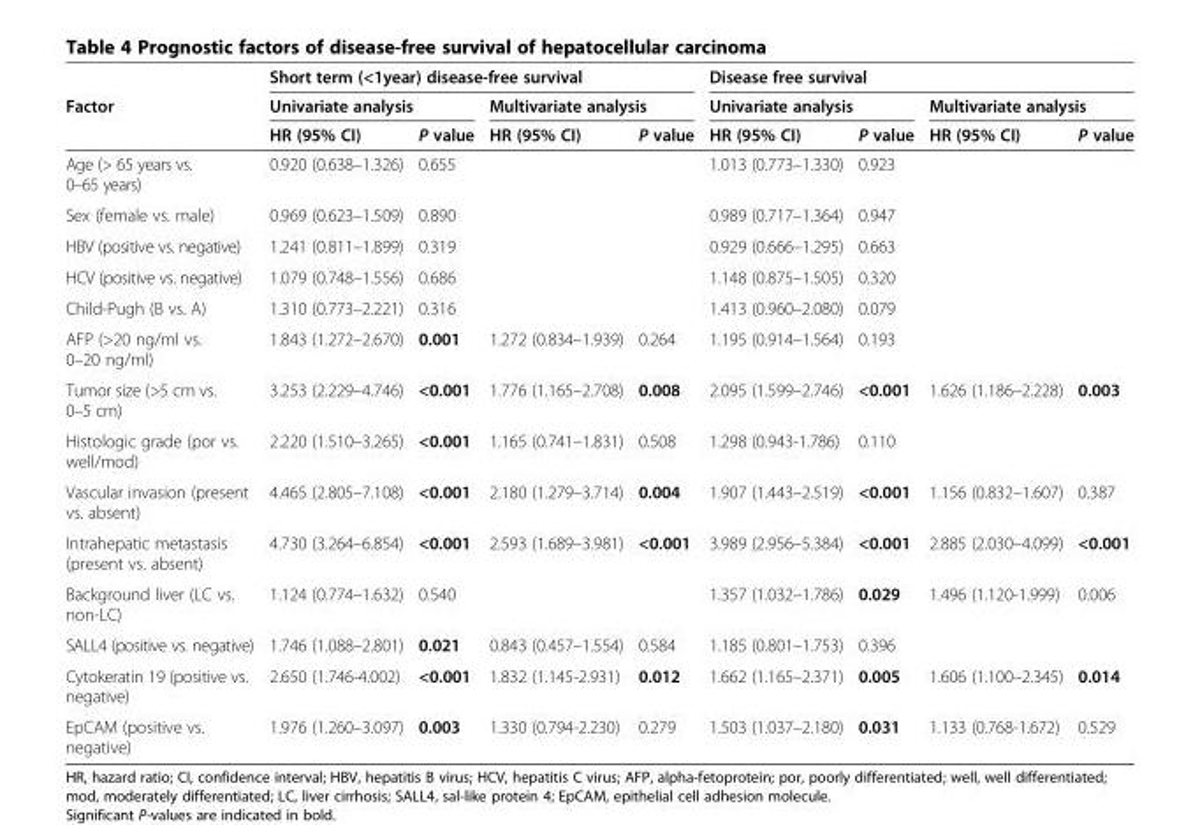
<table><thead><tr><td rowspan="3">Factor</td><td colspan="4">Short term (&lt;1year) disease-free survival</td><td colspan="4">Disease free survival</td></tr><tr><td colspan="2">Univariate analysis</td><td colspan="2">Multivariate analysis</td><td colspan="2">Univariate analysis</td><td colspan="2">Multivariate analysis</td></tr><tr><td>HR (95% CI)</td><td>P value</td><td>HR (95% CI)</td><td>P value</td><td>HR (95% CI)</td><td>P value</td><td>HR (95% CI)</td><td>P value</td></tr></thead><tbody><tr><td>Age (&gt; 65 years vs. 0–65 years)</td><td>0.920 (0.638–1.326)</td><td>0.655</td><td></td><td></td><td>1.013 (0.773–1.330)</td><td>0.923</td><td></td><td></td></tr><tr><td>Sex (female vs. male)</td><td>0.969 (0.623–1.509)</td><td>0.890</td><td></td><td></td><td>0.989 (0.717–1.364)</td><td>0.947</td><td></td><td></td></tr><tr><td>HBV (positive vs. negative)</td><td>1.241 (0.811–1.899)</td><td>0.319</td><td></td><td></td><td>0.929 (0.666–1.295)</td><td>0.663</td><td></td><td></td></tr><tr><td>HCV (positive vs. negative)</td><td>1.079 (0.748–1.556)</td><td>0.686</td><td></td><td></td><td>1.148 (0.875–1.505)</td><td>0.320</td><td></td><td></td></tr><tr><td>Child-Pugh (B vs. A)</td><td>1.310 (0.773–2.221)</td><td>0.316</td><td></td><td></td><td>1.413 (0.960–2.080)</td><td>0.079</td><td></td><td></td></tr><tr><td>AFP (&gt;20 ng/ml vs. 0–20 ng/ml)</td><td>1.843 (1.272–2.670)</td><td>0.001</td><td>1.272 (0.834–1.939)</td><td>0.264</td><td>1.195 (0.914–1.564)</td><td>0.193</td><td></td><td></td></tr><tr><td>Tumor size (&gt;5 cm vs. 0–5 cm)</td><td>3.253 (2.229–4.746)</td><td>&lt;0.001</td><td>1.776 (1.165–2.708)</td><td>0.008</td><td>2.095 (1.599–2.746)</td><td>&lt;0.001</td><td>1.626 (1.186–2.228)</td><td>0.003</td></tr><tr><td>Histologic grade (por vs. well/mod)</td><td>2.220 (1.510–3.265)</td><td>&lt;0.001</td><td>1.165 (0.741–1.831)</td><td>0.508</td><td>1.298 (0.943-1.786)</td><td>0.110</td><td></td><td></td></tr><tr><td>Vascular invasion (present vs. absent)</td><td>4.465 (2.805–7.108)</td><td>&lt;0.001</td><td>2.180 (1.279–3.714)</td><td>0.004</td><td>1.907 (1.443–2.519)</td><td>&lt;0.001</td><td>1.156 (0.832–1.607)</td><td>0.387</td></tr><tr><td>Intrahepatic metastasis (present vs. absent)</td><td>4.730 (3.264–6.854)</td><td>&lt;0.001</td><td>2.593 (1.689–3.981)</td><td>&lt;0.001</td><td>3.989 (2.956–5.384)</td><td>&lt;0.001</td><td>2.885 (2.030–4.099)</td><td>&lt;0.001</td></tr><tr><td>Background liver (LC vs. non-LC)</td><td>1.124 (0.774–1.632)</td><td>0.540</td><td></td><td></td><td>1.357 (1.032–1.786)</td><td>0.029</td><td>1.496 (1.120-1.999)</td><td>0.006</td></tr><tr><td>SALL4 (positive vs. negative)</td><td>1.746 (1.088–2.801)</td><td>0.021</td><td>0.843 (0.457–1.554)</td><td>0.584</td><td>1.185 (0.801–1.753)</td><td>0.396</td><td></td><td></td></tr><tr><td>Cytokeratin 19 (positive vs. negative)</td><td>2.650 (1.746-4.002)</td><td>&lt;0.001</td><td>1.832 (1.145-2.931)</td><td>0.012</td><td>1.662 (1.165–2.371)</td><td>0.005</td><td>1.606 (1.100–2.345)</td><td>0.014</td></tr><tr><td>EpCAM (positive vs. negative)</td><td>1.976 (1.260–3.097)</td><td>0.003</td><td>1.330 (0.794-2.230)</td><td>0.279</td><td>1.503 (1.037–2.180)</td><td>0.031</td><td>1.133 (0.768-1.672)</td><td>0.529</td></tr></tbody></table>